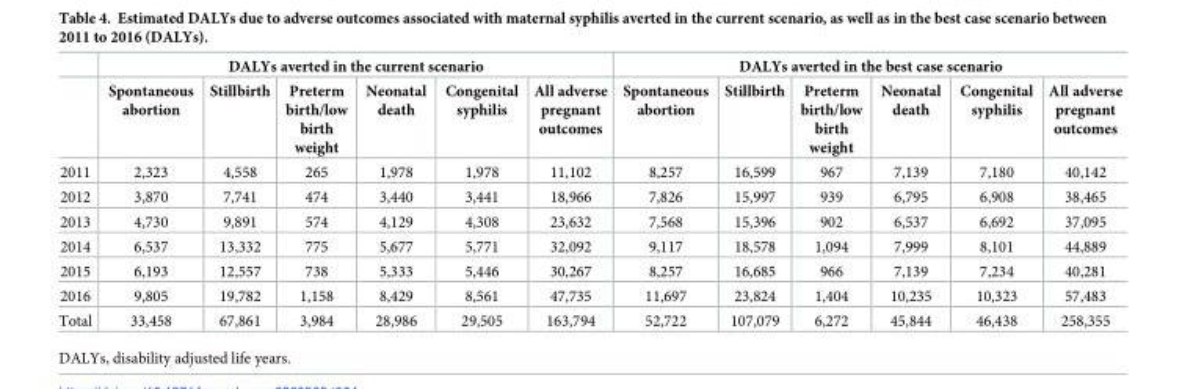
<table><thead><tr><td rowspan="2"></td><td colspan="6">DALYs averted in the current scenario</td><td colspan="6">DALYs averted in the best case scenario</td></tr><tr><td>Spontaneous abortion</td><td>Stillbirth</td><td>Preterm birth/low birth weight</td><td>Neonatal death</td><td>Congenital syphilis</td><td>All adverse pregnant outcomes</td><td>Spontaneous abortion</td><td>Stillbirth</td><td>Preterm birth/low birth weight</td><td>Neonatal death</td><td>Congenital syphilis</td><td>All adverse pregnant outcomes</td></tr></thead><tbody><tr><td>2011</td><td>2,323</td><td>4,558</td><td>265</td><td>1,978</td><td>1,978</td><td>11,102</td><td>8,257</td><td>16,599</td><td>967</td><td>7,139</td><td>7,180</td><td>40,142</td></tr><tr><td>2012</td><td>3,870</td><td>7,741</td><td>474</td><td>3,440</td><td>3,441</td><td>18,966</td><td>7,826</td><td>15,997</td><td>939</td><td>6,795</td><td>6,908</td><td>38,465</td></tr><tr><td>2013</td><td>4,730</td><td>9,891</td><td>574</td><td>4,129</td><td>4,308</td><td>23,632</td><td>7,568</td><td>15,396</td><td>902</td><td>6,537</td><td>6,692</td><td>37,095</td></tr><tr><td>2014</td><td>6,537</td><td>13,332</td><td>775</td><td>5,677</td><td>5,771</td><td>32,092</td><td>9,117</td><td>18,578</td><td>1,094</td><td>7,999</td><td>8,101</td><td>44,889</td></tr><tr><td>2015</td><td>6,193</td><td>12,557</td><td>738</td><td>5,333</td><td>5,446</td><td>30,267</td><td>8,257</td><td>16,685</td><td>966</td><td>7,139</td><td>7,234</td><td>40,281</td></tr><tr><td>2016</td><td>9,805</td><td>19,782</td><td>1,158</td><td>8,429</td><td>8,561</td><td>47,735</td><td>11,697</td><td>23,824</td><td>1,404</td><td>10,235</td><td>10,323</td><td>57,483</td></tr><tr><td>Total</td><td>33,458</td><td>67,861</td><td>3,984</td><td>28,986</td><td>29,505</td><td>163,794</td><td>52,722</td><td>107,079</td><td>6,272</td><td>45,844</td><td>46,438</td><td>258,355</td></tr></tbody></table>